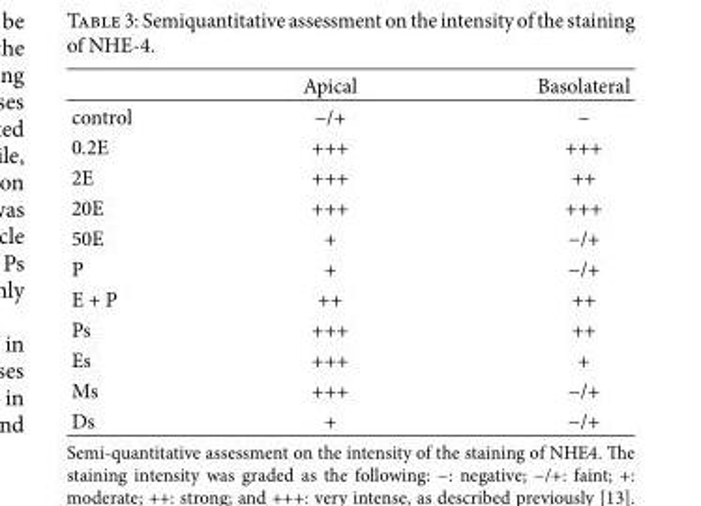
<table><thead><tr><td></td><td>Apical</td><td>Basolateral</td></tr></thead><tbody><tr><td>control</td><td>−/+</td><td>−</td></tr><tr><td>0.2E</td><td>+++</td><td>+++</td></tr><tr><td>2E</td><td>+++</td><td>++</td></tr><tr><td>20E</td><td>+++</td><td>+++</td></tr><tr><td>50E</td><td>+</td><td>−/+</td></tr><tr><td>P</td><td>+</td><td>−/+</td></tr><tr><td>E + P</td><td>++</td><td>++</td></tr><tr><td>Ps</td><td>+++</td><td>++</td></tr><tr><td>Es</td><td>+++</td><td>+</td></tr><tr><td>Ms</td><td>+++</td><td>−/+</td></tr><tr><td>Ds</td><td>+</td><td>−/+</td></tr></tbody></table>